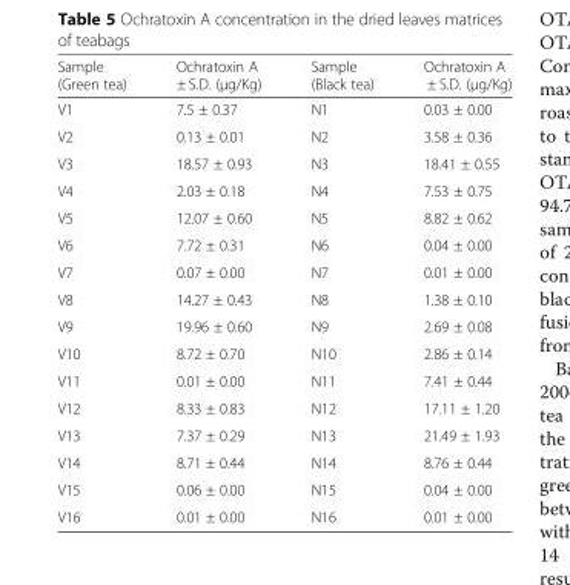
<table><thead><tr><td>Sample (Green tea)</td><td>Ochratoxin A ± S.D. (μg/Kg)</td><td>Sample (Black tea)</td><td>Ochratoxin A ± S.D. (μg/Kg)</td></tr></thead><tbody><tr><td>V1</td><td>7.5 ± 0.37</td><td>N1</td><td>0.03 ± 0.00</td></tr><tr><td>V2</td><td>0.13 ± 0.01</td><td>N2</td><td>3.58 ± 0.36</td></tr><tr><td>V3</td><td>18.57 ± 0.93</td><td>N3</td><td>18.41 ± 0.55</td></tr><tr><td>V4</td><td>2.03 ± 0.18</td><td>N4</td><td>7.53 ± 0.75</td></tr><tr><td>V5</td><td>12.07 ± 0.60</td><td>N5</td><td>8.82 ± 0.62</td></tr><tr><td>V6</td><td>7.72 ± 0.31</td><td>N6</td><td>0.04 ± 0.00</td></tr><tr><td>V7</td><td>0.07 ± 0.00</td><td>N7</td><td>0.01 ± 0.00</td></tr><tr><td>V8</td><td>14.27 ± 0.43</td><td>N8</td><td>1.38 ± 0.10</td></tr><tr><td>V9</td><td>19.96 ± 0.60</td><td>N9</td><td>2.69 ± 0.08</td></tr><tr><td>V10</td><td>8.72 ± 0.70</td><td>N10</td><td>2.86 ± 0.14</td></tr><tr><td>V11</td><td>0.01 ± 0.00</td><td>N11</td><td>7.41 ± 0.44</td></tr><tr><td>V12</td><td>8.33 ± 0.83</td><td>N12</td><td>17.11 ± 1.20</td></tr><tr><td>V13</td><td>7.37 ± 0.29</td><td>N13</td><td>21.49 ± 1.93</td></tr><tr><td>V14</td><td>8.71 ± 0.44</td><td>N14</td><td>8.76 ± 0.44</td></tr><tr><td>V15</td><td>0.06 ± 0.00</td><td>N15</td><td>0.04 ± 0.00</td></tr><tr><td>V16</td><td>0.01 ± 0.00</td><td>N16</td><td>0.01 ± 0.00</td></tr></tbody></table>